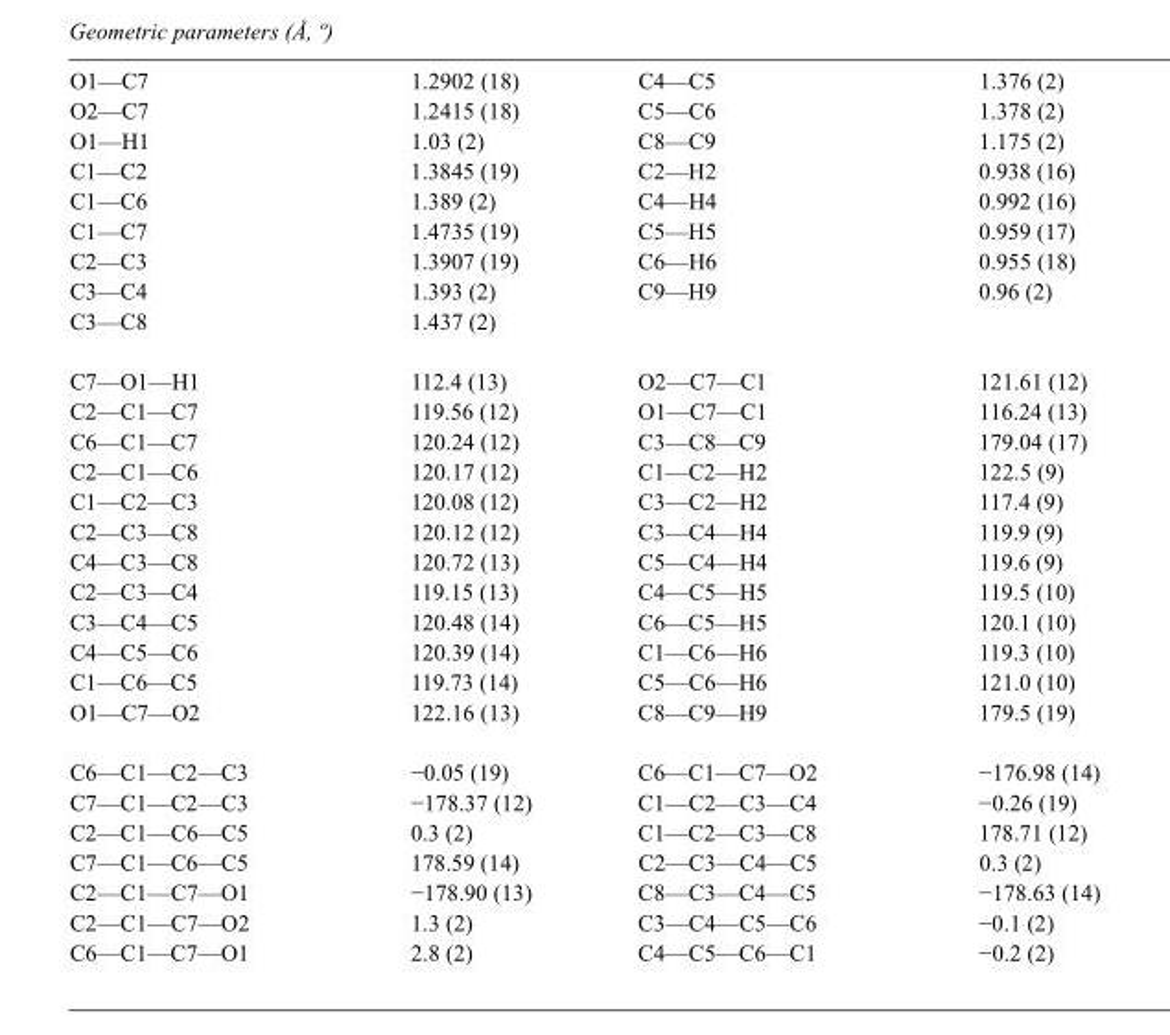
<table><tbody><tr><td>O1—C7</td><td>1.2902 (18)</td><td>C4—C5</td><td>1.376 (2)</td></tr><tr><td>O2—C7</td><td>1.2415 (18)</td><td>C5—C6</td><td>1.378 (2)</td></tr><tr><td>O1—H1</td><td>1.03 (2)</td><td>C8—C9</td><td>1.175 (2)</td></tr><tr><td>C1—C2</td><td>1.3845 (19)</td><td>C2—H2</td><td>0.938 (16)</td></tr><tr><td>C1—C6</td><td>1.389 (2)</td><td>C4—H4</td><td>0.992 (16)</td></tr><tr><td>C1—C7</td><td>1.4735 (19)</td><td>C5—H5</td><td>0.959 (17)</td></tr><tr><td>C2—C3</td><td>1.3907 (19)</td><td>C6—H6</td><td>0.955 (18)</td></tr><tr><td>C3—C4</td><td>1.393 (2)</td><td>C9—H9</td><td>0.96 (2)</td></tr><tr><td>C3—C8</td><td>1.437 (2)</td><td></td><td></td></tr><tr><td>C7—O1—H1</td><td>112.4 (13)</td><td>O2—C7—C1</td><td>121.61 (12)</td></tr><tr><td>C2—C1—C7</td><td>119.56 (12)</td><td>O1—C7—C1</td><td>116.24 (13)</td></tr><tr><td>C6—C1—C7</td><td>120.24 (12)</td><td>C3—C8—C9</td><td>179.04 (17)</td></tr><tr><td>C2—C1—C6</td><td>120.17 (12)</td><td>C1—C2—H2</td><td>122.5 (9)</td></tr><tr><td>C1—C2—C3</td><td>120.08 (12)</td><td>C3—C2—H2</td><td>117.4 (9)</td></tr><tr><td>C2—C3—C8</td><td>120.12 (12)</td><td>C3—C4—H4</td><td>119.9 (9)</td></tr><tr><td>C4—C3—C8</td><td>120.72 (13)</td><td>C5—C4—H4</td><td>119.6 (9)</td></tr><tr><td>C2—C3—C4</td><td>119.15 (13)</td><td>C4—C5—H5</td><td>119.5 (10)</td></tr><tr><td>C3—C4—C5</td><td>120.48 (14)</td><td>C6—C5—H5</td><td>120.1 (10)</td></tr><tr><td>C4—C5—C6</td><td>120.39 (14)</td><td>C1—C6—H6</td><td>119.3 (10)</td></tr><tr><td>C1—C6—C5</td><td>119.73 (14)</td><td>C5—C6—H6</td><td>121.0 (10)</td></tr><tr><td>O1—C7—O2</td><td>122.16 (13)</td><td>C8—C9—H9</td><td>179.5 (19)</td></tr><tr><td>C6—C1—C2—C3</td><td>−0.05 (19)</td><td>C6—C1—C7—O2</td><td>−176.98 (14)</td></tr><tr><td>C7—C1—C2—C3</td><td>−178.37 (12)</td><td>C1—C2—C3—C4</td><td>−0.26 (19)</td></tr><tr><td>C2—C1—C6—C5</td><td>0.3 (2)</td><td>C1—C2—C3—C8</td><td>178.71 (12)</td></tr><tr><td>C7—C1—C6—C5</td><td>178.59 (14)</td><td>C2—C3—C4—C5</td><td>0.3 (2)</td></tr><tr><td>C2—C1—C7—O1</td><td>−178.90 (13)</td><td>C8—C3—C4—C5</td><td>−178.63 (14)</td></tr><tr><td>C2—C1—C7—O2</td><td>1.3 (2)</td><td>C3—C4—C5—C6</td><td>−0.1 (2)</td></tr><tr><td>C6—C1—C7—O1</td><td>2.8 (2)</td><td>C4—C5—C6—C1</td><td>−0.2 (2)</td></tr></tbody></table>